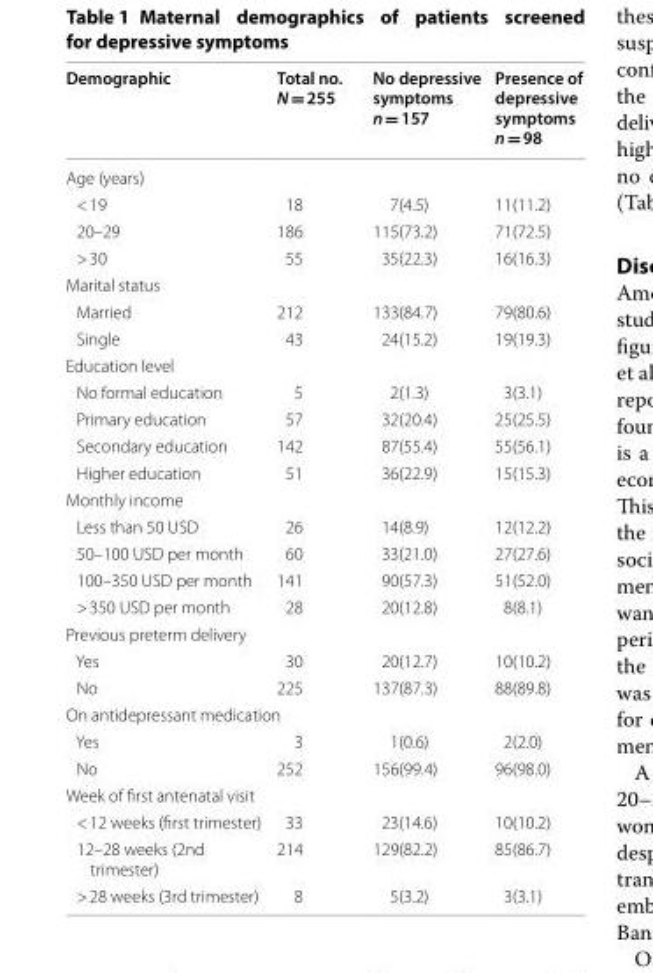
<table><thead><tr><td>Demographic</td><td>Total no. N = 255</td><td>No depressive symptoms n = 157</td><td>Presence of depressive symptoms n = 98</td></tr></thead><tbody><tr><td colspan="4">Age (years)</td></tr><tr><td>&lt; 19</td><td>18</td><td>7(4.5)</td><td>11(11.2)</td></tr><tr><td>20–29</td><td>186</td><td>115(73.2)</td><td>71(72.5)</td></tr><tr><td>&gt; 30</td><td>55</td><td>35(22.3)</td><td>16(16.3)</td></tr><tr><td colspan="4">Marital status</td></tr><tr><td>Married</td><td>212</td><td>133(84.7)</td><td>79(80.6)</td></tr><tr><td>Single</td><td>43</td><td>24(15.2)</td><td>19(19.3)</td></tr><tr><td colspan="4">Education level</td></tr><tr><td>No formal education</td><td>5</td><td>2(1.3)</td><td>3(3.1)</td></tr><tr><td>Primary education</td><td>57</td><td>32(20.4)</td><td>25(25.5)</td></tr><tr><td>Secondary education</td><td>142</td><td>87(55.4)</td><td>55(56.1)</td></tr><tr><td>Higher education</td><td>51</td><td>36(22.9)</td><td>15(15.3)</td></tr><tr><td colspan="4">Monthly income</td></tr><tr><td>Less than 50 USD</td><td>26</td><td>14(8.9)</td><td>12(12.2)</td></tr><tr><td>50–100 USD per month</td><td>60</td><td>33(21.0)</td><td>27(27.6)</td></tr><tr><td>100–350 USD per month</td><td>141</td><td>90(57.3)</td><td>51(52.0)</td></tr><tr><td>&gt; 350 USD per month</td><td>28</td><td>20(12.8)</td><td>8(8.1)</td></tr><tr><td colspan="4">Previous preterm delivery</td></tr><tr><td>Yes</td><td>30</td><td>20(12.7)</td><td>10(10.2)</td></tr><tr><td>No</td><td>225</td><td>137(87.3)</td><td>88(89.8)</td></tr><tr><td colspan="4">On antidepressant medication</td></tr><tr><td>Yes</td><td>3</td><td>1(0.6)</td><td>2(2.0)</td></tr><tr><td>No</td><td>252</td><td>156(99.4)</td><td>96(98.0)</td></tr><tr><td colspan="4">Week of first antenatal visit</td></tr><tr><td>&lt; 12 weeks (first trimester)</td><td>33</td><td>23(14.6)</td><td>10(10.2)</td></tr><tr><td>12–28 weeks (2nd trimester)</td><td>214</td><td>129(82.2)</td><td>85(86.7)</td></tr><tr><td>&gt; 28 weeks (3rd trimester)</td><td>8</td><td>5(3.2)</td><td>3(3.1)</td></tr></tbody></table>